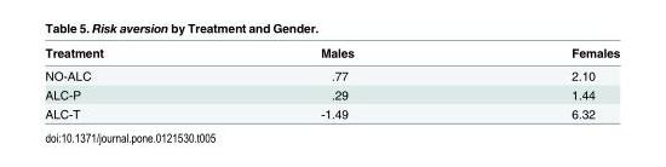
<table><thead><tr><td>Treatment</td><td>Males</td><td>Females</td></tr></thead><tbody><tr><td>NO-ALC</td><td>.77</td><td>2.10</td></tr><tr><td>ALC-P</td><td>.29</td><td>1.44</td></tr><tr><td>ALC-T</td><td>-1.49</td><td>6.32</td></tr></tbody></table>